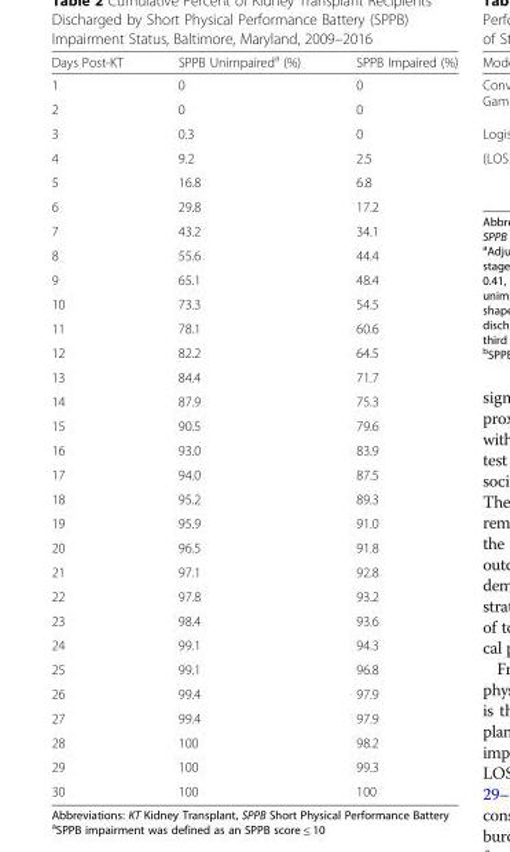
<table><thead><tr><td>Days Post-KT</td><td>SPPB Unimpaired<sup>a</sup> (%)</td><td>SPPB Impaired (%)</td></tr></thead><tbody><tr><td>1</td><td>0</td><td>0</td></tr><tr><td>2</td><td>0</td><td>0</td></tr><tr><td>3</td><td>0.3</td><td>0</td></tr><tr><td>4</td><td>9.2</td><td>2.5</td></tr><tr><td>5</td><td>16.8</td><td>6.8</td></tr><tr><td>6</td><td>29.8</td><td>17.2</td></tr><tr><td>7</td><td>43.2</td><td>34.1</td></tr><tr><td>8</td><td>55.6</td><td>44.4</td></tr><tr><td>9</td><td>65.1</td><td>48.4</td></tr><tr><td>10</td><td>73.3</td><td>54.5</td></tr><tr><td>11</td><td>78.1</td><td>60.6</td></tr><tr><td>12</td><td>82.2</td><td>64.5</td></tr><tr><td>13</td><td>84.4</td><td>71.7</td></tr><tr><td>14</td><td>87.9</td><td>75.3</td></tr><tr><td>15</td><td>90.5</td><td>79.6</td></tr><tr><td>16</td><td>93.0</td><td>83.9</td></tr><tr><td>17</td><td>94.0</td><td>87.5</td></tr><tr><td>18</td><td>95.2</td><td>89.3</td></tr><tr><td>19</td><td>95.9</td><td>91.0</td></tr><tr><td>20</td><td>96.5</td><td>91.8</td></tr><tr><td>21</td><td>97.1</td><td>92.8</td></tr><tr><td>22</td><td>97.8</td><td>93.2</td></tr><tr><td>23</td><td>98.4</td><td>93.6</td></tr><tr><td>24</td><td>99.1</td><td>94.3</td></tr><tr><td>25</td><td>99.1</td><td>96.8</td></tr><tr><td>26</td><td>99.4</td><td>97.9</td></tr><tr><td>27</td><td>99.4</td><td>97.9</td></tr><tr><td>28</td><td>100</td><td>98.2</td></tr><tr><td>29</td><td>100</td><td>99.3</td></tr><tr><td>30</td><td>100</td><td>100</td></tr></tbody></table>